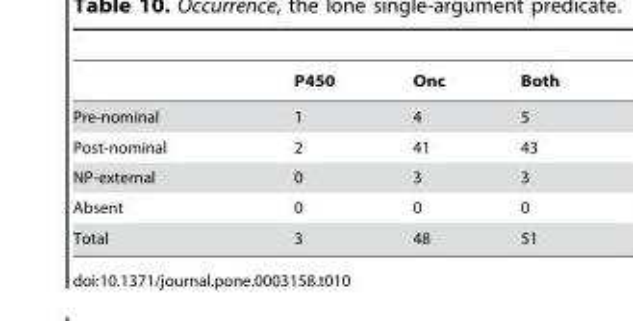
<table><thead><tr><td></td><td>P450</td><td>Onc</td><td>Both</td></tr></thead><tbody><tr><td>Pre-nominal</td><td>1</td><td>4</td><td>5</td></tr><tr><td>Post-nominal</td><td>2</td><td>41</td><td>43</td></tr><tr><td>NP-external</td><td>0</td><td>3</td><td>3</td></tr><tr><td>Absent</td><td>0</td><td>0</td><td>0</td></tr><tr><td>Total</td><td>3</td><td>48</td><td>51</td></tr></tbody></table>